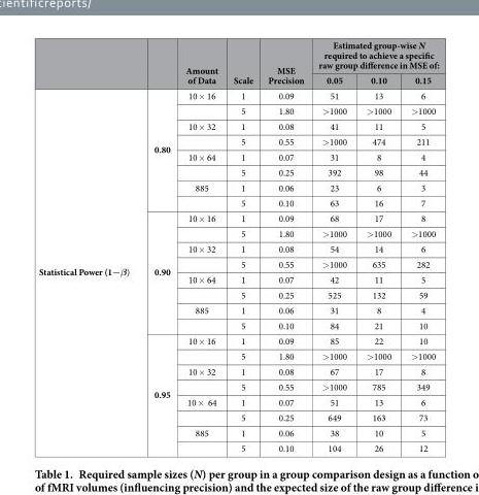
<table><thead><tr><td rowspan="2"></td><td rowspan="2"></td><td rowspan="2">Amount of Data</td><td rowspan="2">Scale</td><td rowspan="2">MSE Precision</td><td colspan="3">Estimated group-wise N required to achieve a specific raw group difference in MSE of:</td></tr><tr><td>0.05</td><td>0.10</td><td>0.15</td></tr></thead><tbody><tr><td rowspan="24">Statistical Power (1−β)</td><td rowspan="8">0.80</td><td>10 × 16</td><td>1</td><td>0.09</td><td>51</td><td>13</td><td>6</td></tr><tr><td></td><td>5</td><td>1.80</td><td>&gt;1000</td><td>&gt;1000</td><td>&gt;1000</td></tr><tr><td>10 × 32</td><td>1</td><td>0.08</td><td>41</td><td>11</td><td>5</td></tr><tr><td></td><td>5</td><td>0.55</td><td>&gt;1000</td><td>474</td><td>211</td></tr><tr><td>10 × 64</td><td>1</td><td>0.07</td><td>31</td><td>8</td><td>4</td></tr><tr><td></td><td>5</td><td>0.25</td><td>392</td><td>98</td><td>44</td></tr><tr><td>885</td><td>1</td><td>0.06</td><td>23</td><td>6</td><td>3</td></tr><tr><td></td><td>5</td><td>0.10</td><td>63</td><td>16</td><td>7</td></tr><tr><td rowspan="8">0.90</td><td>10 × 16</td><td>1</td><td>0.09</td><td>68</td><td>17</td><td>8</td></tr><tr><td></td><td>5</td><td>1.80</td><td>&gt;1000</td><td>&gt;1000</td><td>&gt;1000</td></tr><tr><td>10 × 32</td><td>1</td><td>0.08</td><td>54</td><td>14</td><td>6</td></tr><tr><td></td><td>5</td><td>0.55</td><td>&gt;1000</td><td>635</td><td>282</td></tr><tr><td>10 × 64</td><td>1</td><td>0.07</td><td>42</td><td>11</td><td>5</td></tr><tr><td></td><td>5</td><td>0.25</td><td>525</td><td>132</td><td>59</td></tr><tr><td>885</td><td>1</td><td>0.06</td><td>31</td><td>8</td><td>4</td></tr><tr><td></td><td>5</td><td>0.10</td><td>84</td><td>21</td><td>10</td></tr><tr><td rowspan="8">0.95</td><td>10 × 16</td><td>1</td><td>0.09</td><td>85</td><td>22</td><td>10</td></tr><tr><td></td><td>5</td><td>1.80</td><td>&gt;1000</td><td>&gt;1000</td><td>&gt;1000</td></tr><tr><td>10 × 32</td><td>1</td><td>0.08</td><td>67</td><td>17</td><td>8</td></tr><tr><td></td><td>5</td><td>0.55</td><td>&gt;1000</td><td>785</td><td>349</td></tr><tr><td>10 × 64</td><td>1</td><td>0.07</td><td>51</td><td>13</td><td>6</td></tr><tr><td></td><td>5</td><td>0.25</td><td>649</td><td>163</td><td>73</td></tr><tr><td>885</td><td>1</td><td>0.06</td><td>38</td><td>10</td><td>5</td></tr><tr><td></td><td>5</td><td>0.10</td><td>104</td><td>26</td><td>12</td></tr></tbody></table>